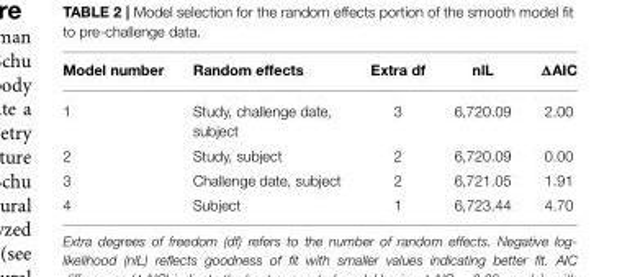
<table><thead><tr><td>Model number</td><td>Random effects</td><td>Extra df</td><td>nlL</td><td>ΔAIC</td></tr></thead><tbody><tr><td>1</td><td>Study, challenge date, subject</td><td>3</td><td>6,720.09</td><td>2.00</td></tr><tr><td>2</td><td>Study, subject</td><td>2</td><td>6,720.09</td><td>0.00</td></tr><tr><td>3</td><td>Challenge date, subject</td><td>2</td><td>6,721.05</td><td>1.91</td></tr><tr><td>4</td><td>Subject</td><td>1</td><td>6,723.44</td><td>4.70</td></tr></tbody></table>